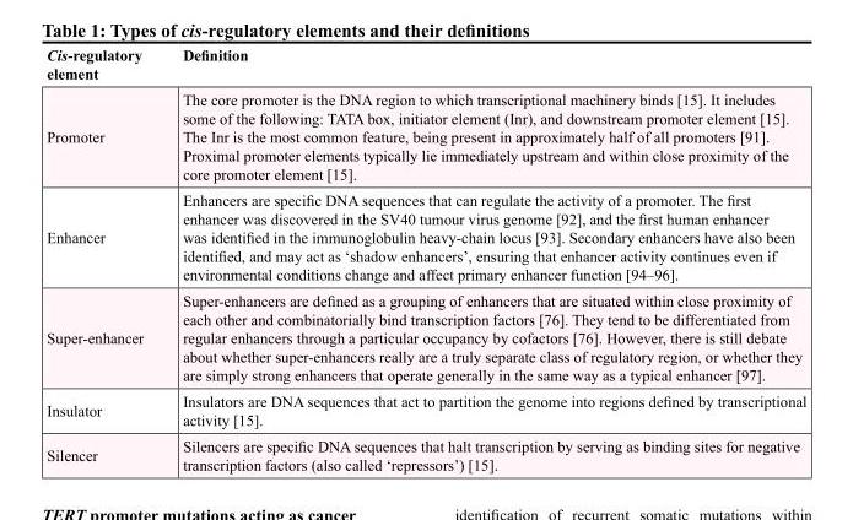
<table><thead><tr><td>Cis-regulatory element</td><td>Definition</td></tr></thead><tbody><tr><td>Promoter</td><td>The core promoter is the DNA region to which transcriptional machinery binds [15]. It includes some of the following: TATA box, initiator element (Inr), and downstream promoter element [15]. The Inr is the most common feature, being present in approximately half of all promoters [91]. Proximal promoter elements typically lie immediately upstream and within close proximity of the core promoter element [15].</td></tr><tr><td>Enhancer</td><td>Enhancers are specific DNA sequences that can regulate the activity of a promoter. The first enhancer was discovered in the SV40 tumour virus genome [92], and the first human enhancer was identified in the immunoglobulin heavy-chain locus [93]. Secondary enhancers have also been identified, and may act as ‘shadow enhancers’, ensuring that enhancer activity continues even if environmental conditions change and affect primary enhancer function [94–96].</td></tr><tr><td>Super-enhancer</td><td>Super-enhancers are defined as a grouping of enhancers that are situated within close proximity of each other and combinatorially bind transcription factors [76]. They tend to be differentiated from regular enhancers through a particular occupancy by cofactors [76]. However, there is still debate about whether super-enhancers really are a truly separate class of regulatory region, or whether they are simply strong enhancers that operate generally in the same way as a typical enhancer [97].</td></tr><tr><td>Insulator</td><td>Insulators are DNA sequences that act to partition the genome into regions defined by transcriptional activity [15].</td></tr><tr><td>Silencer</td><td>Silencers are specific DNA sequences that halt transcription by serving as binding sites for negative transcription factors (also called ‘repressors’) [15].</td></tr></tbody></table>